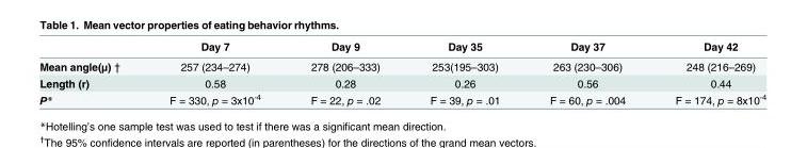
<table><thead><tr><td></td><td>Day 7</td><td>Day 9</td><td>Day 35</td><td>Day 37</td><td>Day 42</td></tr></thead><tbody><tr><td>Mean angle(μ) †</td><td>257 (234–274)</td><td>278 (206–333)</td><td>253(195–303)</td><td>263 (230–306)</td><td>248 (216–269)</td></tr><tr><td>Length (r)</td><td>0.58</td><td>0.28</td><td>0.26</td><td>0.56</td><td>0.44</td></tr><tr><td>P*</td><td>F = 330, p = 3x10<sup>-4</sup></td><td>F = 22, p = .02</td><td>F = 39, p = .01</td><td>F = 60, p = .004</td><td>F = 174, p = 8x10<sup>-4</sup></td></tr></tbody></table>